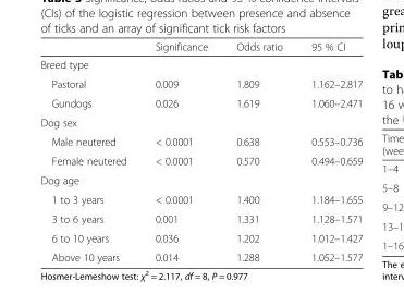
<table><thead><tr><td></td><td>Significance</td><td>Odds ratio</td><td>95 % CI</td></tr></thead><tbody><tr><td colspan="4">Breed type</td></tr><tr><td>Pastoral</td><td>0.009</td><td>1.809</td><td>1.162–2.817</td></tr><tr><td>Gundogs</td><td>0.026</td><td>1.619</td><td>1.060–2.471</td></tr><tr><td colspan="4">Dog sex</td></tr><tr><td>Male neutered</td><td>&lt; 0.0001</td><td>0.638</td><td>0.553–0.736</td></tr><tr><td>Female neutered</td><td>&lt; 0.0001</td><td>0.570</td><td>0.494–0.659</td></tr><tr><td colspan="4">Dog age</td></tr><tr><td>1 to 3 years</td><td>&lt; 0.0001</td><td>1.400</td><td>1.184–1.655</td></tr><tr><td>3 to 6 years</td><td>0.001</td><td>1.331</td><td>1.128–1.571</td></tr><tr><td>6 to 10 years</td><td>0.036</td><td>1.202</td><td>1.012–1.427</td></tr><tr><td>Above 10 years</td><td>0.014</td><td>1.288</td><td>1.052–1.577</td></tr></tbody></table>